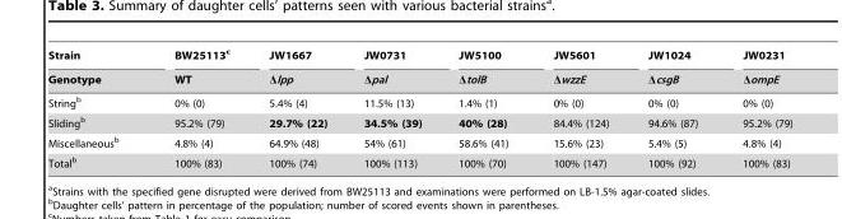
<table><thead><tr><td rowspan="2">Strain Genotype</td><td rowspan="2">BW25113<sup>c</sup> WT</td><td rowspan="2">JW1667 Δlpp</td><td rowspan="2">JW0731 Δpal</td><td rowspan="2">JW5100 ΔtolB</td><td rowspan="2">JW5601 ΔwzzE</td><td rowspan="2">JW1024 ΔcsgB</td><td rowspan="2">JW0231 ΔompE</td></tr><tr></tr></thead><tbody><tr><td>String<sup>b</sup></td><td>0% (0)</td><td>5.4% (4)</td><td>11.5% (13)</td><td>1.4% (1)</td><td>0% (0)</td><td>0% (0)</td><td>0% (0)</td></tr><tr><td>Sliding<sup>b</sup></td><td>95.2% (79)</td><td>29.7% (22)</td><td>34.5% (39)</td><td>40% (28)</td><td>84.4% (124)</td><td>94.6% (87)</td><td>95.2% (79)</td></tr><tr><td>Miscellaneous<sup>b</sup></td><td>4.8% (4)</td><td>64.9% (48)</td><td>54% (61)</td><td>58.6% (41)</td><td>15.6% (23)</td><td>5.4% (5)</td><td>4.8% (4)</td></tr><tr><td>Total<sup>b</sup></td><td>100% (83)</td><td>100% (74)</td><td>100% (113)</td><td>100% (70)</td><td>100% (147)</td><td>100% (92)</td><td>100% (83)</td></tr></tbody></table>